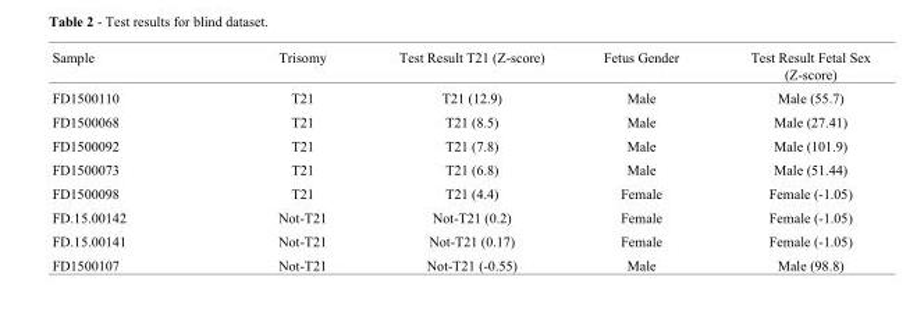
<table><thead><tr><td>Sample</td><td>Trisomy</td><td>Test Result T21 (Z-score)</td><td>Fetus Gender</td><td>Test Result Fetal Sex (Z-score)</td></tr></thead><tbody><tr><td>FD1500110</td><td>T21</td><td>T21 (12.9)</td><td>Male</td><td>Male (55.7)</td></tr><tr><td>FD1500068</td><td>T21</td><td>T21 (8.5)</td><td>Male</td><td>Male (27.41)</td></tr><tr><td>FD1500092</td><td>T21</td><td>T21 (7.8)</td><td>Male</td><td>Male (101.9)</td></tr><tr><td>FD1500073</td><td>T21</td><td>T21 (6.8)</td><td>Male</td><td>Male (51.44)</td></tr><tr><td>FD1500098</td><td>T21</td><td>T21 (4.4)</td><td>Female</td><td>Female (-1.05)</td></tr><tr><td>FD.15.00142</td><td>Not-T21</td><td>Not-T21 (0.2)</td><td>Female</td><td>Female (-1.05)</td></tr><tr><td>FD.15.00141</td><td>Not-T21</td><td>Not-T21 (0.17)</td><td>Female</td><td>Female (-1.05)</td></tr><tr><td>FD1500107</td><td>Not-T21</td><td>Not-T21 (-0.55)</td><td>Male</td><td>Male (98.8)</td></tr></tbody></table>